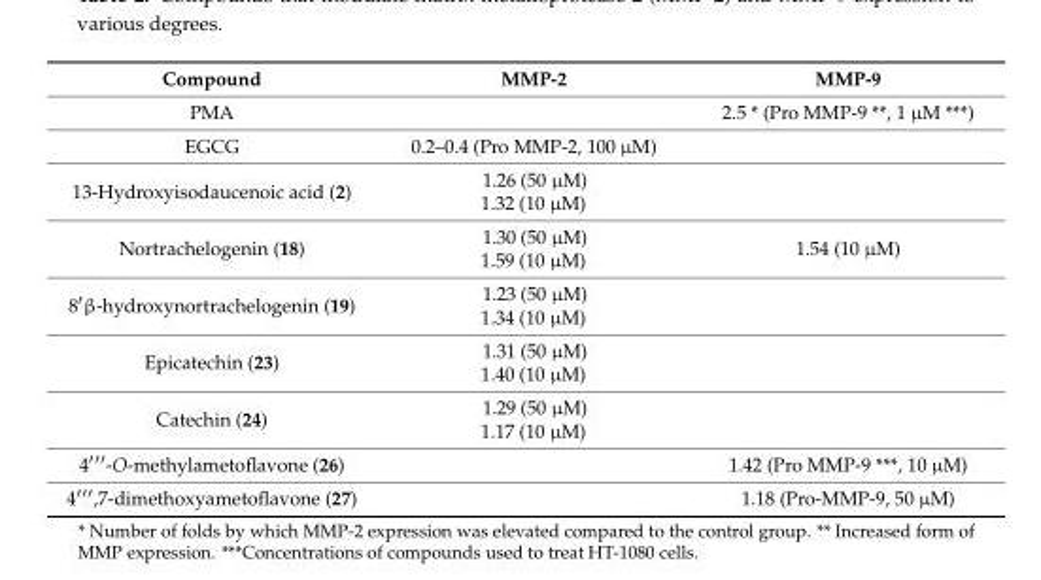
<table><thead><tr><td>Compound</td><td>MMP-2</td><td>MMP-9</td></tr></thead><tbody><tr><td>PMA</td><td></td><td>2.5 * (Pro MMP-9 **, 1 µM ***)</td></tr><tr><td>EGCG</td><td>0.2–0.4 (Pro MMP-2, 100 µM)</td><td></td></tr><tr><td>13-Hydroxyisodaucenoic acid (2)</td><td>1.26 (50 µM) 1.32 (10 µM)</td><td></td></tr><tr><td>Nortrachelogenin (18)</td><td>1.30 (50 µM) 1.59 (10 µM)</td><td>1.54 (10 µM)</td></tr><tr><td>8′β-hydroxynortrachelogenin (19)</td><td>1.23 (50 µM) 1.34 (10 µM)</td><td></td></tr><tr><td>Epicatechin (23)</td><td>1.31 (50 µM) 1.40 (10 µM)</td><td></td></tr><tr><td>Catechin (24)</td><td>1.29 (50 µM) 1.17 (10 µM)</td><td></td></tr><tr><td>4′′′-O-methylametoflavone (26)</td><td></td><td>1.42 (Pro MMP-9 ***, 10 µM)</td></tr><tr><td>4′′′,7-dimethoxyametoflavone (27)</td><td></td><td>1.18 (Pro-MMP-9, 50 µM)</td></tr></tbody></table>